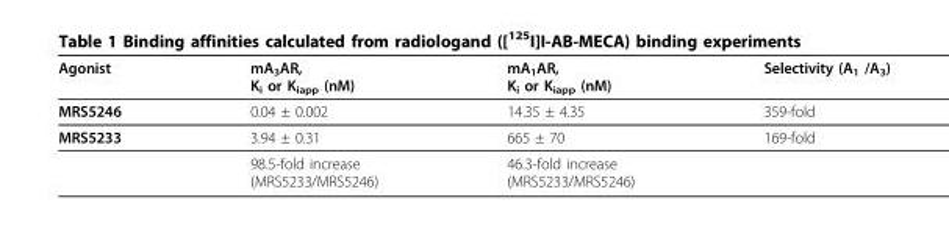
<table><thead><tr><td>Agonist</td><td>mA<sub>3</sub>AR, K<sub>i</sub> or K<sub>iapp</sub> (nM)</td><td>mA<sub>1</sub>AR, K<sub>i</sub> or K<sub>iapp</sub> (nM)</td><td>Selectivity (A<sub>1</sub> /A<sub>3</sub>)</td></tr></thead><tbody><tr><td>MRS5246</td><td>0.04 ± 0.002</td><td>14.35 ± 4.35</td><td>359-fold</td></tr><tr><td rowspan="2">MRS5233</td><td>3.94 ± 0.31</td><td>665 ± 70</td><td>169-fold</td></tr><tr><td>98.5-fold increase (MRS5233/MRS5246)</td><td>46.3-fold increase (MRS5233/MRS5246)</td><td></td></tr></tbody></table>